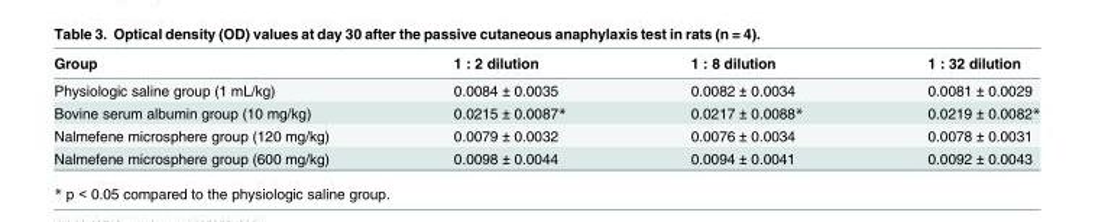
<table><thead><tr><td>Group</td><td>1 : 2 dilution</td><td>1 : 8 dilution</td><td>1 : 32 dilution</td></tr></thead><tbody><tr><td>Physiologic saline group (1 mL/kg)</td><td>0.0084 ± 0.0035</td><td>0.0082 ± 0.0034</td><td>0.0081 ± 0.0029</td></tr><tr><td>Bovine serum albumin group (10 mg/kg)</td><td>0.0215 ± 0.0087*</td><td>0.0217 ± 0.0088*</td><td>0.0219 ± 0.0082*</td></tr><tr><td>Nalmefene microsphere group (120 mg/kg)</td><td>0.0079 ± 0.0032</td><td>0.0076 ± 0.0034</td><td>0.0078 ± 0.0031</td></tr><tr><td>Nalmefene microsphere group (600 mg/kg)</td><td>0.0098 ± 0.0044</td><td>0.0094 ± 0.0041</td><td>0.0092 ± 0.0043</td></tr></tbody></table>